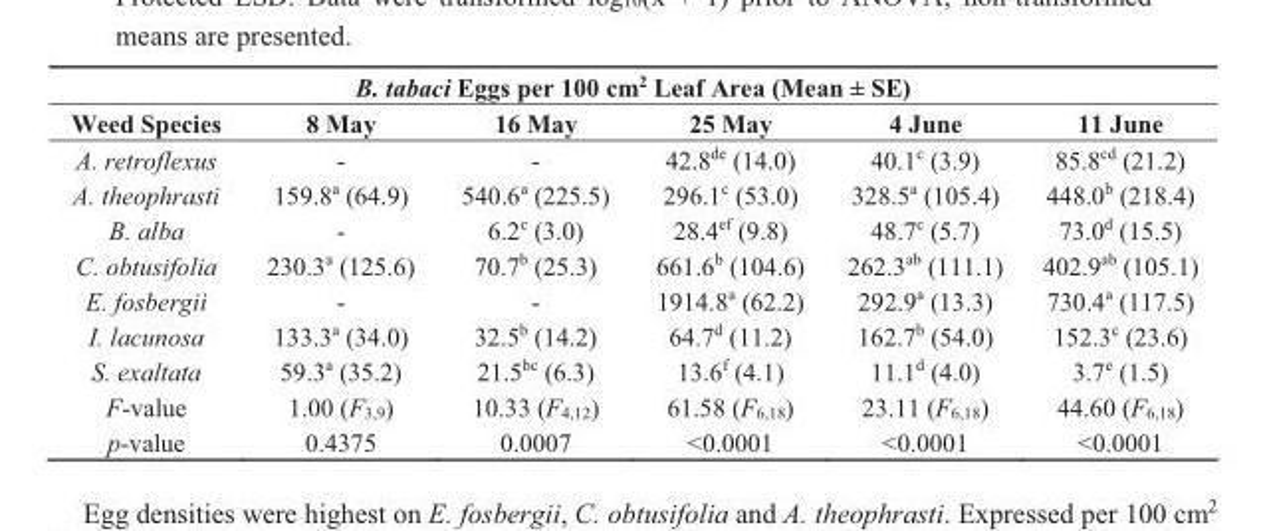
<table><thead><tr><td colspan="6">B. tabaci Eggs per 100 cm<sup>2</sup> Leaf Area (Mean ± SE)</td></tr><tr><td>Weed Species</td><td>8 May</td><td>16 May</td><td>25 May</td><td>4 June</td><td>11 June</td></tr></thead><tbody><tr><td>A. retroflexus</td><td>-</td><td>-</td><td>42.8<sup>de</sup> (14.0)</td><td>40.1<sup>c</sup> (3.9)</td><td>85.8<sup>cd</sup> (21.2)</td></tr><tr><td>A. theophrasti</td><td>159.8<sup>a</sup> (64.9)</td><td>540.6<sup>a</sup> (225.5)</td><td>296.1<sup>c</sup> (53.0)</td><td>328.5<sup>a</sup> (105.4)</td><td>448.0<sup>b</sup> (218.4)</td></tr><tr><td>B. alba</td><td>-</td><td>6.2<sup>c</sup> (3.0)</td><td>28.4<sup>ef</sup> (9.8)</td><td>48.7<sup>c</sup> (5.7)</td><td>73.0<sup>d</sup> (15.5)</td></tr><tr><td>C. obtusifolia</td><td>230.3<sup>a</sup> (125.6)</td><td>70.7<sup>b</sup> (25.3)</td><td>661.6<sup>b</sup> (104.6)</td><td>262.3<sup>ab</sup> (111.1)</td><td>402.9<sup>ab</sup> (105.1)</td></tr><tr><td>E. fosbergii</td><td>-</td><td>-</td><td>1914.8<sup>a</sup> (62.2)</td><td>292.9<sup>a</sup> (13.3)</td><td>730.4<sup>a</sup> (117.5)</td></tr><tr><td>I. lacunosa</td><td>133.3<sup>a</sup> (34.0)</td><td>32.5<sup>b</sup> (14.2)</td><td>64.7<sup>d</sup> (11.2)</td><td>162.7<sup>b</sup> (54.0)</td><td>152.3<sup>c</sup> (23.6)</td></tr><tr><td>S. exaltata</td><td>59.3<sup>a</sup> (35.2)</td><td>21.5<sup>bc</sup> (6.3)</td><td>13.6<sup>f</sup> (4.1)</td><td>11.1<sup>d</sup> (4.0)</td><td>3.7<sup>e</sup> (1.5)</td></tr><tr><td>F-value</td><td>1.00 (F<sub>3,9</sub>)</td><td>10.33 (F<sub>4,12</sub>)</td><td>61.58 (F<sub>6,18</sub>)</td><td>23.11 (F<sub>6,18</sub>)</td><td>44.60 (F<sub>6,18</sub>)</td></tr><tr><td>p-value</td><td>0.4375</td><td>0.0007</td><td>&lt;0.0001</td><td>&lt;0.0001</td><td>&lt;0.0001</td></tr></tbody></table>